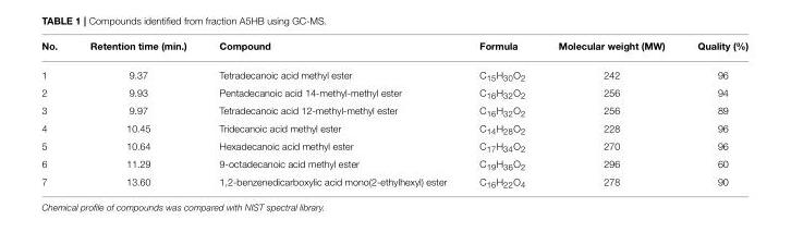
<table><thead><tr><td>No.</td><td>Retention time (min.)</td><td>Compound</td><td>Formula</td><td>Molecular weight (MW)</td><td>Quality (%)</td></tr></thead><tbody><tr><td>1</td><td>9.37</td><td>Tetradecanoic acid methyl ester</td><td>C<sub>15</sub>H<sub>30</sub>O<sub>2</sub></td><td>242</td><td>96</td></tr><tr><td>2</td><td>9.93</td><td>Pentadecanoic acid 14-methyl-methyl ester</td><td>C<sub>16</sub>H<sub>32</sub>O<sub>2</sub></td><td>256</td><td>94</td></tr><tr><td>3</td><td>9.97</td><td>Tetradecanoic acid 12-methyl-methyl ester</td><td>C<sub>16</sub>H<sub>32</sub>O<sub>2</sub></td><td>256</td><td>89</td></tr><tr><td>4</td><td>10.45</td><td>Tridecanoic acid methyl ester</td><td>C<sub>14</sub>H<sub>28</sub>O<sub>2</sub></td><td>228</td><td>96</td></tr><tr><td>5</td><td>10.64</td><td>Hexadecanoic acid methyl ester</td><td>C<sub>17</sub>H<sub>34</sub>O<sub>2</sub></td><td>270</td><td>96</td></tr><tr><td>6</td><td>11.29</td><td>9-octadecanoic acid methyl ester</td><td>C<sub>19</sub>H<sub>36</sub>O<sub>2</sub></td><td>296</td><td>60</td></tr><tr><td>7</td><td>13.60</td><td>1,2-benzenedicarboxylic acid mono(2-ethylhexyl) ester</td><td>C<sub>16</sub>H<sub>22</sub>O<sub>4</sub></td><td>278</td><td>90</td></tr></tbody></table>